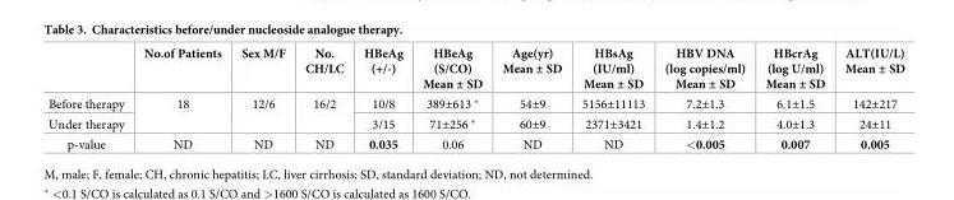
<table><thead><tr><td></td><td>No.of Patients</td><td>Sex M/F</td><td>No. CH/LC</td><td>HBeAg (+/-)</td><td>HBeAg (S/CO) Mean ± SD</td><td>Age(yr) Mean ± SD</td><td>HBsAg (IU/ml) Mean ± SD</td><td>HBV DNA (log copies/ml) Mean ± SD</td><td>HBcrAg (log U/ml) Mean ± SD</td><td>ALT(IU/L) Mean ± SD</td></tr></thead><tbody><tr><td>Before therapy</td><td rowspan="2">18</td><td rowspan="2">12/6</td><td rowspan="2">16/2</td><td>10/8</td><td>389±613 *</td><td>54±9</td><td>5156±11113</td><td>7.2±1.3</td><td>6.1±1.5</td><td>142±217</td></tr><tr><td>Under therapy</td><td>3/15</td><td>71±256 *</td><td>60±9</td><td>2371±3421</td><td>1.4±1.2</td><td>4.0±1.3</td><td>24±11</td></tr><tr><td>p-value</td><td>ND</td><td>ND</td><td>ND</td><td>0.035</td><td>0.06</td><td>ND</td><td>ND</td><td>&lt;0.005</td><td>0.007</td><td>0.005</td></tr></tbody></table>